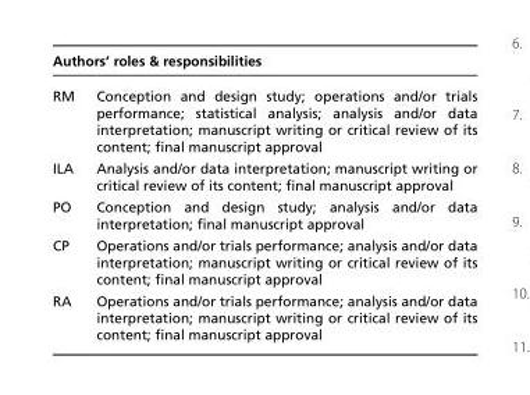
<table><thead><tr><td colspan="2">Authors’ roles &amp; responsibilities</td></tr><tr><td>RM</td><td>Conception and design study; operations and/or trials performance; statistical analysis; analysis and/or data interpretation; manuscript writing or critical review of its content; final manuscript approval</td></tr></thead><tbody><tr><td>ILA</td><td>Analysis and/or data interpretation; manuscript writing or critical review of its content; final manuscript approval</td></tr><tr><td>PO</td><td>Conception and design study; analysis and/or data interpretation; final manuscript approval</td></tr><tr><td>CP</td><td>Operations and/or trials performance; analysis and/or data interpretation; manuscript writing or critical review of its content; final manuscript approval</td></tr><tr><td>RA</td><td>Operations and/or trials performance; analysis and/or data interpretation; manuscript writing or critical review of its content; final manuscript approval</td></tr></tbody></table>